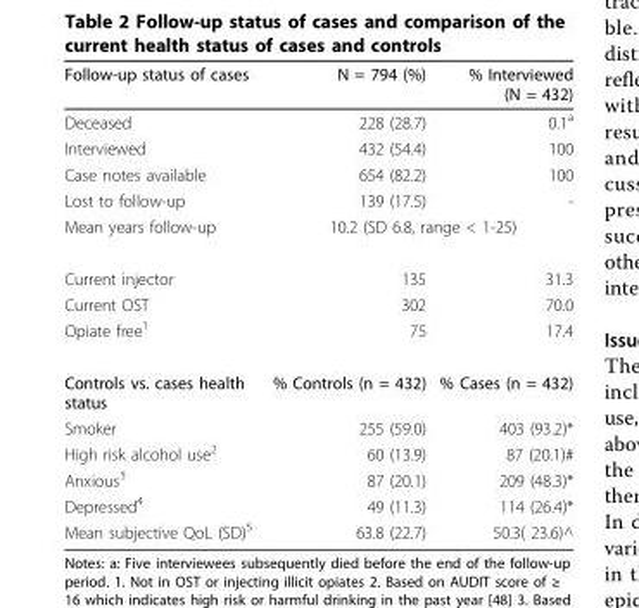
<table><thead><tr><td>Follow-up status of cases</td><td>N = 794 (%)</td><td>% Interviewed (N = 432)</td></tr></thead><tbody><tr><td>Deceased</td><td>228 (28.7)</td><td>0.1<sup>a</sup></td></tr><tr><td>Interviewed</td><td>432 (54.4)</td><td>100</td></tr><tr><td>Case notes available</td><td>654 (82.2)</td><td>100</td></tr><tr><td>Lost to follow-up</td><td>139 (17.5)</td><td>-</td></tr><tr><td>Mean years follow-up</td><td colspan="2">10.2 (SD 6.8, range &lt; 1-25)</td></tr><tr><td>Current injector</td><td>135</td><td>31.3</td></tr><tr><td>Current OST</td><td>302</td><td>70.0</td></tr><tr><td>Opiate free<sup>1</sup></td><td>75</td><td>17.4</td></tr><tr><td>Controls vs. cases health status</td><td>% Controls (n = 432)</td><td>% Cases (n = 432)</td></tr><tr><td>Smoker</td><td>255 (59.0)</td><td>403 (93.2)*</td></tr><tr><td>High risk alcohol use<sup>2</sup></td><td>60 (13.9)</td><td>87 (20.1)#</td></tr><tr><td>Anxious<sup>3</sup></td><td>87 (20.1)</td><td>209 (48.3)*</td></tr><tr><td>Depressed<sup>4</sup></td><td>49 (11.3)</td><td>114 (26.4)*</td></tr><tr><td>Mean subjective QoL (SD)<sup>5</sup></td><td>63.8 (22.7)</td><td>50.3( 23.6)^</td></tr></tbody></table>